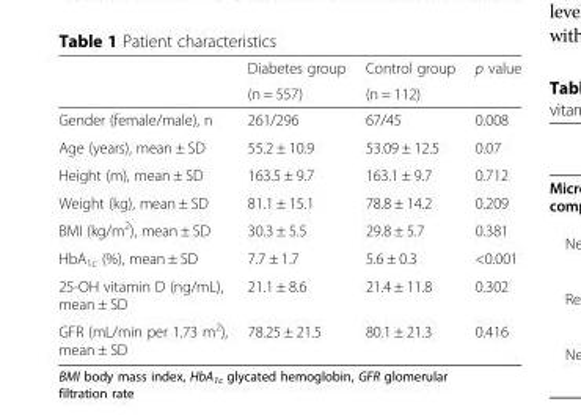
<table><thead><tr><td rowspan="2"></td><td rowspan="2">Diabetes group (n = 557)</td><td rowspan="2">Control group (n = 112)</td><td rowspan="2">p value</td></tr><tr></tr></thead><tbody><tr><td>Gender (female/male), n</td><td>261/296</td><td>67/45</td><td>0.008</td></tr><tr><td>Age (years), mean ± SD</td><td>55.2 ± 10.9</td><td>53.09 ± 12.5</td><td>0.07</td></tr><tr><td>Height (m), mean ± SD</td><td>163.5 ± 9.7</td><td>163.1 ± 9.7</td><td>0.712</td></tr><tr><td>Weight (kg), mean ± SD</td><td>81.1 ± 15.1</td><td>78.8 ± 14.2</td><td>0.209</td></tr><tr><td>BMI (kg/m<sup>2</sup>), mean ± SD</td><td>30.3 ± 5.5</td><td>29.8 ± 5.7</td><td>0.381</td></tr><tr><td>HbA<sub>1c</sub> (%), mean ± SD</td><td>7.7 ± 1.7</td><td>5.6 ± 0.3</td><td>&lt;0.001</td></tr><tr><td>25-OH vitamin D (ng/mL), mean ± SD</td><td>21.1 ± 8.6</td><td>21.4 ± 11.8</td><td>0.302</td></tr><tr><td>GFR (mL/min per 1.73 m<sup>2</sup>), mean ± SD</td><td>78.25 ± 21.5</td><td>80.1 ± 21.3</td><td>0.416</td></tr></tbody></table>